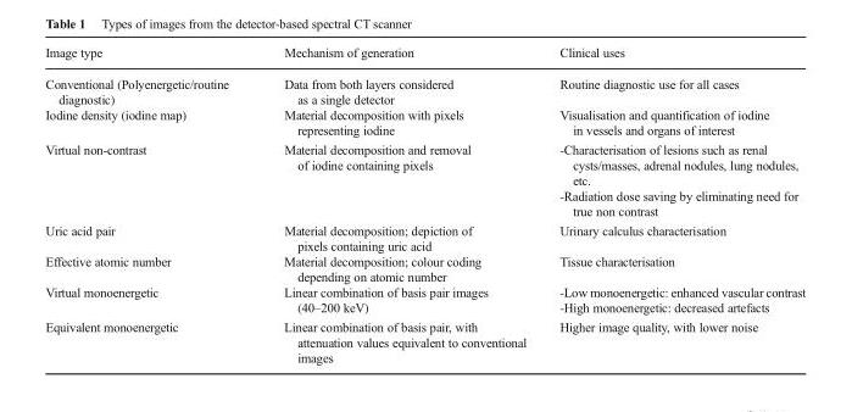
<table><thead><tr><td>Image type</td><td>Mechanism of generation</td><td>Clinical uses</td></tr></thead><tbody><tr><td>Conventional (Polyenergetic/routine diagnostic)</td><td>Data from both layers considered as a single detector</td><td>Routine diagnostic use for all cases</td></tr><tr><td>Iodine density (iodine map)</td><td>Material decomposition with pixels representing iodine</td><td>Visualisation and quantification of iodine in vessels and organs of interest</td></tr><tr><td>Virtual non-contrast</td><td>Material decomposition and removal of iodine containing pixels</td><td>-Characterisation of lesions such as renal cysts/masses, adrenal nodules, lung nodules, etc. -Radiation dose saving by eliminating need for true non contrast</td></tr><tr><td>Uric acid pair</td><td>Material decomposition; depiction of pixels containing uric acid</td><td>Urinary calculus characterisation</td></tr><tr><td>Effective atomic number</td><td>Material decomposition; colour coding depending on atomic number</td><td>Tissue characterisation</td></tr><tr><td>Virtual monoenergetic</td><td>Linear combination of basis pair images (40–200 keV)</td><td>-Low monoenergetic: enhanced vascular contrast -High monoenergetic: decreased artefacts</td></tr><tr><td>Equivalent monoenergetic</td><td>Linear combination of basis pair, with attenuation values equivalent to conventional images</td><td>Higher image quality, with lower noise</td></tr></tbody></table>